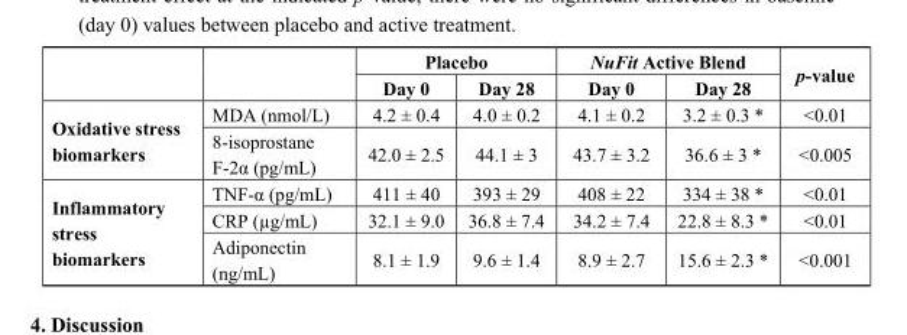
<table><thead><tr><td rowspan="2"></td><td rowspan="2"></td><td colspan="2">Placebo</td><td colspan="2">NuFit Active Blend</td><td rowspan="2">p-value</td></tr><tr><td>Day 0</td><td>Day 28</td><td>Day 0</td><td>Day 28</td></tr></thead><tbody><tr><td rowspan="2">Oxidative stress biomarkers</td><td>MDA (nmol/L)</td><td>4.2 ± 0.4</td><td>4.0 ± 0.2</td><td>4.1 ± 0.2</td><td>3.2 ± 0.3 *</td><td>&lt;0.01</td></tr><tr><td>8-isoprostane F-2α (pg/mL)</td><td>42.0 ± 2.5</td><td>44.1 ± 3</td><td>43.7 ± 3.2</td><td>36.6 ± 3 *</td><td>&lt;0.005</td></tr><tr><td rowspan="3">Inflammatory stress biomarkers</td><td>TNF-α (pg/mL)</td><td>411 ± 40</td><td>393 ± 29</td><td>408 ± 22</td><td>334 ± 38 *</td><td>&lt;0.01</td></tr><tr><td>CRP (µg/mL)</td><td>32.1 ± 9.0</td><td>36.8 ± 7.4</td><td>34.2 ± 7.4</td><td>22.8 ± 8.3 *</td><td>&lt;0.01</td></tr><tr><td>Adiponectin (ng/mL)</td><td>8.1 ± 1.9</td><td>9.6 ± 1.4</td><td>8.9 ± 2.7</td><td>15.6 ± 2.3 *</td><td>&lt;0.001</td></tr></tbody></table>